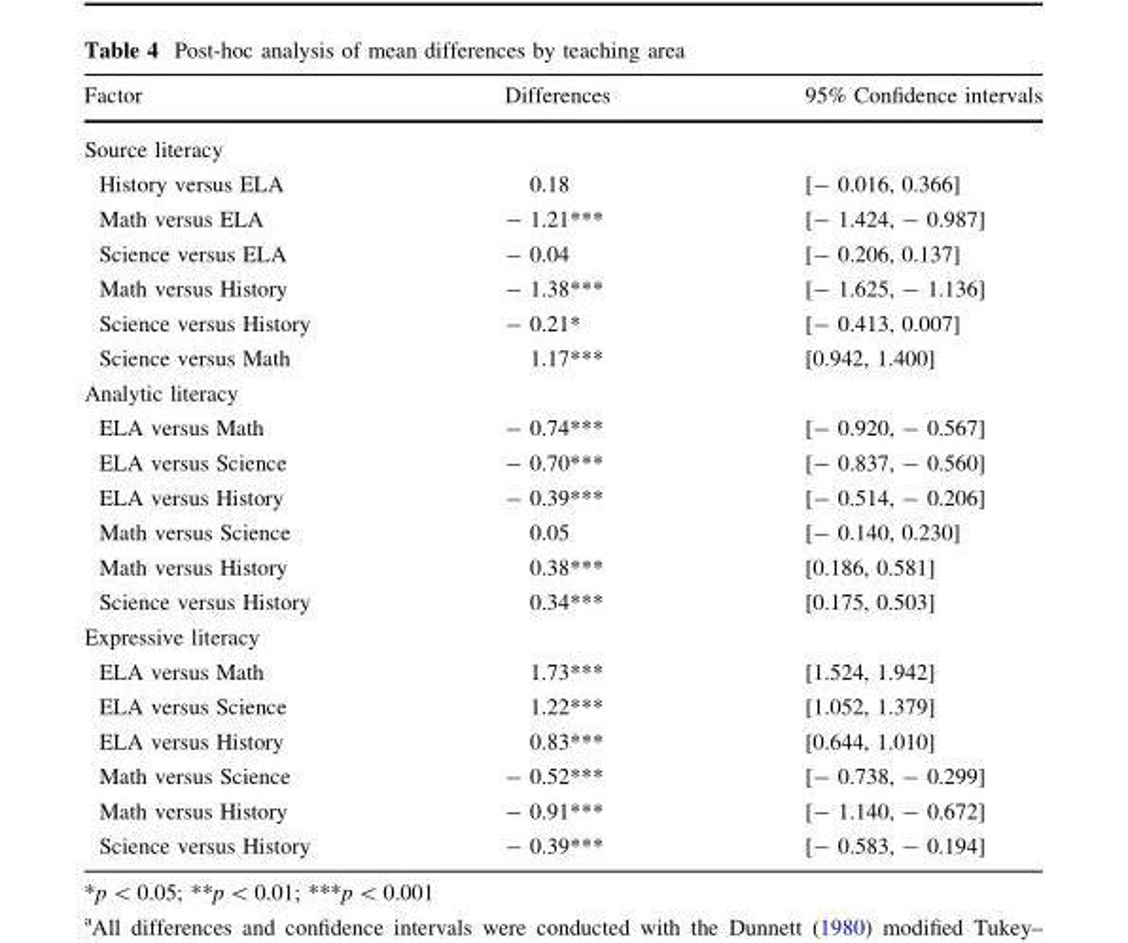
<table><thead><tr><td>Factor</td><td>Differences</td><td>95% Confidence intervals</td></tr></thead><tbody><tr><td colspan="3">Source literacy</td></tr><tr><td>History versus ELA</td><td>0.18</td><td>[- 0.016, 0.366]</td></tr><tr><td>Math versus ELA</td><td>- 1.21***</td><td>[- 1.424, - 0.987]</td></tr><tr><td>Science versus ELA</td><td>- 0.04</td><td>[- 0.206, 0.137]</td></tr><tr><td>Math versus History</td><td>- 1.38***</td><td>[- 1.625, - 1.136]</td></tr><tr><td>Science versus History</td><td>- 0.21*</td><td>[- 0.413, 0.007]</td></tr><tr><td>Science versus Math</td><td>1.17***</td><td>[0.942, 1.400]</td></tr><tr><td colspan="3">Analytic literacy</td></tr><tr><td>ELA versus Math</td><td>- 0.74***</td><td>[- 0.920, - 0.567]</td></tr><tr><td>ELA versus Science</td><td>- 0.70***</td><td>[- 0.837, - 0.560]</td></tr><tr><td>ELA versus History</td><td>- 0.39***</td><td>[- 0.514, - 0.206]</td></tr><tr><td>Math versus Science</td><td>0.05</td><td>[- 0.140, 0.230]</td></tr><tr><td>Math versus History</td><td>0.38***</td><td>[0.186, 0.581]</td></tr><tr><td>Science versus History</td><td>0.34***</td><td>[0.175, 0.503]</td></tr><tr><td colspan="3">Expressive literacy</td></tr><tr><td>ELA versus Math</td><td>1.73***</td><td>[1.524, 1.942]</td></tr><tr><td>ELA versus Science</td><td>1.22***</td><td>[1.052, 1.379]</td></tr><tr><td>ELA versus History</td><td>0.83***</td><td>[0.644, 1.010]</td></tr><tr><td>Math versus Science</td><td>- 0.52***</td><td>[- 0.738, - 0.299]</td></tr><tr><td>Math versus History</td><td>- 0.91***</td><td>[- 1.140, - 0.672]</td></tr><tr><td>Science versus History</td><td>- 0.39***</td><td>[- 0.583, - 0.194]</td></tr></tbody></table>